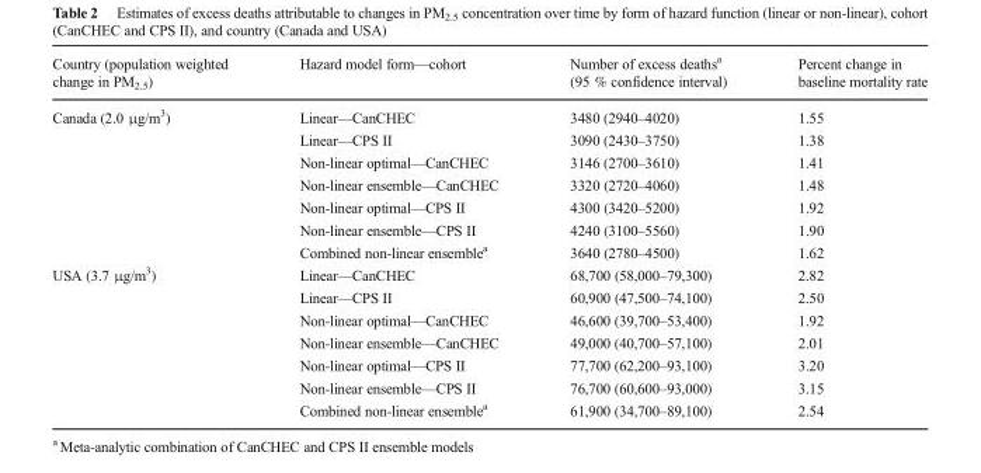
<table><thead><tr><td>Country (population weighted change in PM<sub>2.5</sub>)</td><td>Hazard model form—cohort</td><td>Number of excess deaths<sup>a</sup> (95 % confidence interval)</td><td>Percent change in baseline mortality rate</td></tr></thead><tbody><tr><td rowspan="7">Canada (2.0 μg/m<sup>3</sup>)</td><td>Linear—CanCHEC</td><td>3480 (2940–4020)</td><td>1.55</td></tr><tr><td>Linear—CPS II</td><td>3090 (2430–3750)</td><td>1.38</td></tr><tr><td>Non-linear optimal—CanCHEC</td><td>3146 (2700–3610)</td><td>1.41</td></tr><tr><td>Non-linear ensemble—CanCHEC</td><td>3320 (2720–4060)</td><td>1.48</td></tr><tr><td>Non-linear optimal—CPS II</td><td>4300 (3420–5200)</td><td>1.92</td></tr><tr><td>Non-linear ensemble—CPS II</td><td>4240 (3100–5560)</td><td>1.90</td></tr><tr><td>Combined non-linear ensemble<sup>a</sup></td><td>3640 (2780–4500)</td><td>1.62</td></tr><tr><td rowspan="7">USA (3.7 μg/m<sup>3</sup>)</td><td>Linear—CanCHEC</td><td>68,700 (58,000–79,300)</td><td>2.82</td></tr><tr><td>Linear—CPS II</td><td>60,900 (47,500–74,100)</td><td>2.50</td></tr><tr><td>Non-linear optimal—CanCHEC</td><td>46,600 (39,700–53,400)</td><td>1.92</td></tr><tr><td>Non-linear ensemble—CanCHEC</td><td>49,000 (40,700–57,100)</td><td>2.01</td></tr><tr><td>Non-linear optimal—CPS II</td><td>77,700 (62,200–93,100)</td><td>3.20</td></tr><tr><td>Non-linear ensemble—CPS II</td><td>76,700 (60,600–93,000)</td><td>3.15</td></tr><tr><td>Combined non-linear ensemble<sup>a</sup></td><td>61,900 (34,700–89,100)</td><td>2.54</td></tr></tbody></table>